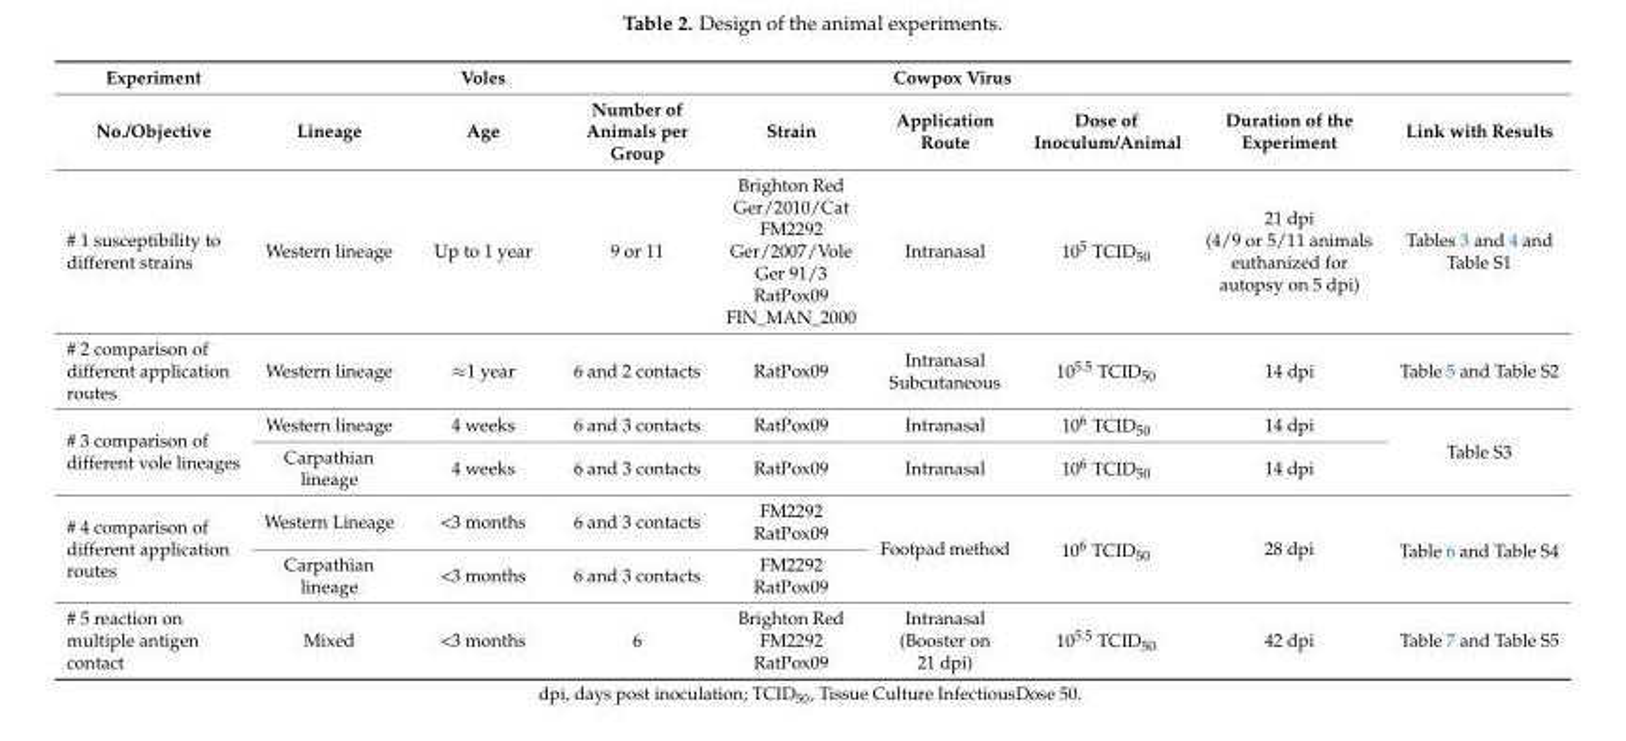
<table><thead><tr><td rowspan="2">Experiment No./Objective</td><td colspan="3">Voles</td><td colspan="3">Cowpox Virus</td><td rowspan="2">Duration of the Experiment</td><td rowspan="2">Link with Results</td></tr><tr><td>Lineage</td><td>Age</td><td>Number of Animals per Group</td><td>Strain</td><td>Application Route</td><td>Dose of Inoculum/Animal</td></tr></thead><tbody><tr><td># 1 susceptibility to different strains</td><td>Western lineage</td><td>Up to 1 year</td><td>9 or 11</td><td>Brighton Red Ger/2010/Cat FM2292 Ger/2007/Vole Ger 91/3 RatPox09 FIN_MAN_2000</td><td>Intranasal</td><td>10<sup>5</sup> TCID<sub>50</sub></td><td>21 dpi (4/9 or 5/11 animals euthanized for autopsy on 5 dpi)</td><td>Tables 3 and 4 and Table S1</td></tr><tr><td># 2 comparison of different application routes</td><td>Western lineage</td><td>≈1 year</td><td>6 and 2 contacts</td><td>RatPox09</td><td>Intranasal Subcutaneous</td><td>10<sup>5.5</sup> TCID<sub>50</sub></td><td>14 dpi</td><td>Table 5 and Table S2</td></tr><tr><td rowspan="2"># 3 comparison of different vole lineages</td><td>Western lineage</td><td>4 weeks</td><td>6 and 3 contacts</td><td>RatPox09</td><td>Intranasal</td><td>10<sup>6</sup> TCID<sub>50</sub></td><td>14 dpi</td><td rowspan="2">Table S3</td></tr><tr><td>Carpathian lineage</td><td>4 weeks</td><td>6 and 3 contacts</td><td>RatPox09</td><td>Intranasal</td><td>10<sup>6</sup> TCID<sub>50</sub></td><td>14 dpi</td></tr><tr><td rowspan="2"># 4 comparison of different application routes</td><td>Western Lineage</td><td>&lt;3 months</td><td>6 and 3 contacts</td><td>FM2292 RatPox09</td><td rowspan="2">Footpad method</td><td rowspan="2">10<sup>6</sup> TCID<sub>50</sub></td><td rowspan="2">28 dpi</td><td rowspan="2">Table 6 and Table S4</td></tr><tr><td>Carpathian lineage</td><td>&lt;3 months</td><td>6 and 3 contacts</td><td>FM2292 RatPox09</td></tr><tr><td># 5 reaction on multiple antigen contact</td><td>Mixed</td><td>&lt;3 months</td><td>6</td><td>Brighton Red FM2292 RatPox09</td><td>Intranasal (Booster on 21 dpi)</td><td>10<sup>5.5</sup> TCID<sub>50</sub></td><td>42 dpi</td><td>Table 7 and Table S5</td></tr></tbody></table>